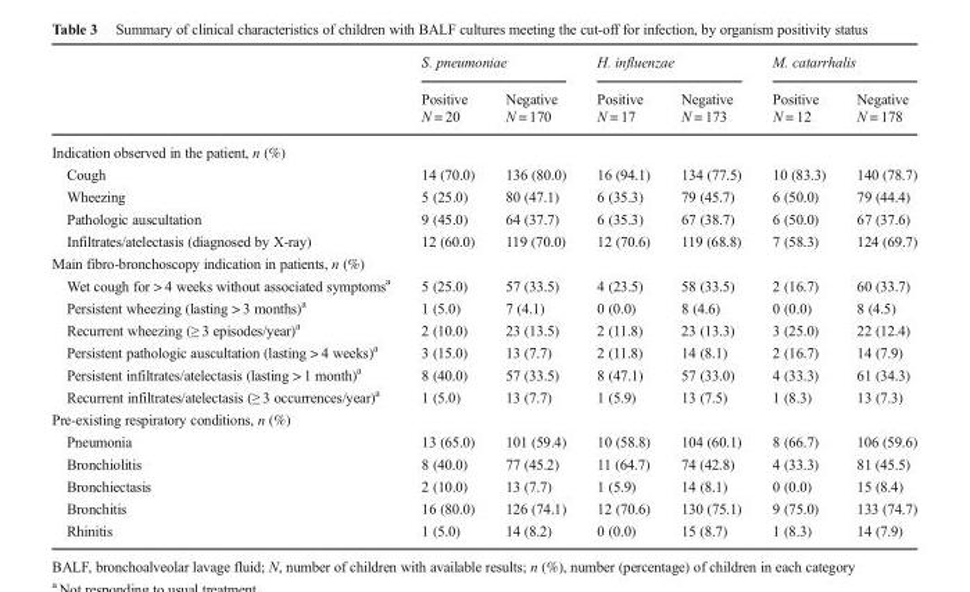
<table><thead><tr><td rowspan="3"></td><td colspan="2">S. pneumoniae</td><td colspan="2">H. influenzae</td><td colspan="2">M. catarrhalis</td></tr><tr><td rowspan="2">Positive N = 20</td><td rowspan="2">Negative N = 170</td><td rowspan="2">Positive N = 17</td><td rowspan="2">Negative N = 173</td><td rowspan="2">Positive N = 12</td><td rowspan="2">Negative N = 178</td></tr><tr></tr></thead><tbody><tr><td colspan="7">Indication observed in the patient, n (%)</td></tr><tr><td>Cough</td><td>14 (70.0)</td><td>136 (80.0)</td><td>16 (94.1)</td><td>134 (77.5)</td><td>10 (83.3)</td><td>140 (78.7)</td></tr><tr><td>Wheezing</td><td>5 (25.0)</td><td>80 (47.1)</td><td>6 (35.3)</td><td>79 (45.7)</td><td>6 (50.0)</td><td>79 (44.4)</td></tr><tr><td>Pathologic auscultation</td><td>9 (45.0)</td><td>64 (37.7)</td><td>6 (35.3)</td><td>67 (38.7)</td><td>6 (50.0)</td><td>67 (37.6)</td></tr><tr><td>Infiltrates/atelectasis (diagnosed by X-ray)</td><td>12 (60.0)</td><td>119 (70.0)</td><td>12 (70.6)</td><td>119 (68.8)</td><td>7 (58.3)</td><td>124 (69.7)</td></tr><tr><td colspan="7">Main fibro-bronchoscopy indication in patients, n (%)</td></tr><tr><td>Wet cough for &gt; 4 weeks without associated symptoms<sup>a</sup></td><td>5 (25.0)</td><td>57 (33.5)</td><td>4 (23.5)</td><td>58 (33.5)</td><td>2 (16.7)</td><td>60 (33.7)</td></tr><tr><td>Persistent wheezing (lasting &gt; 3 months)<sup>a</sup></td><td>1 (5.0)</td><td>7 (4.1)</td><td>0 (0.0)</td><td>8 (4.6)</td><td>0 (0.0)</td><td>8 (4.5)</td></tr><tr><td>Recurrent wheezing (≥ 3 episodes/year)<sup>a</sup></td><td>2 (10.0)</td><td>23 (13.5)</td><td>2 (11.8)</td><td>23 (13.3)</td><td>3 (25.0)</td><td>22 (12.4)</td></tr><tr><td>Persistent pathologic auscultation (lasting &gt; 4 weeks)<sup>a</sup></td><td>3 (15.0)</td><td>13 (7.7)</td><td>2 (11.8)</td><td>14 (8.1)</td><td>2 (16.7)</td><td>14 (7.9)</td></tr><tr><td>Persistent infiltrates/atelectasis (lasting &gt; 1 month)<sup>a</sup></td><td>8 (40.0)</td><td>57 (33.5)</td><td>8 (47.1)</td><td>57 (33.0)</td><td>4 (33.3)</td><td>61 (34.3)</td></tr><tr><td>Recurrent infiltrates/atelectasis (≥ 3 occurrences/year)<sup>a</sup></td><td>1 (5.0)</td><td>13 (7.7)</td><td>1 (5.9)</td><td>13 (7.5)</td><td>1 (8.3)</td><td>13 (7.3)</td></tr><tr><td colspan="7">Pre-existing respiratory conditions, n (%)</td></tr><tr><td>Pneumonia</td><td>13 (65.0)</td><td>101 (59.4)</td><td>10 (58.8)</td><td>104 (60.1)</td><td>8 (66.7)</td><td>106 (59.6)</td></tr><tr><td>Bronchiolitis</td><td>8 (40.0)</td><td>77 (45.2)</td><td>11 (64.7)</td><td>74 (42.8)</td><td>4 (33.3)</td><td>81 (45.5)</td></tr><tr><td>Bronchiectasis</td><td>2 (10.0)</td><td>13 (7.7)</td><td>1 (5.9)</td><td>14 (8.1)</td><td>0 (0.0)</td><td>15 (8.4)</td></tr><tr><td>Bronchitis</td><td>16 (80.0)</td><td>126 (74.1)</td><td>12 (70.6)</td><td>130 (75.1)</td><td>9 (75.0)</td><td>133 (74.7)</td></tr><tr><td>Rhinitis</td><td>1 (5.0)</td><td>14 (8.2)</td><td>0 (0.0)</td><td>15 (8.7)</td><td>1 (8.3)</td><td>14 (7.9)</td></tr></tbody></table>